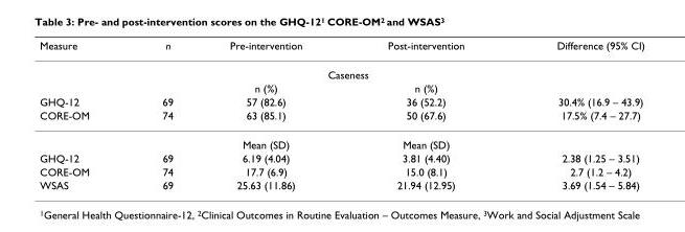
<table><thead><tr><td>Measure</td><td>n</td><td>Pre-intervention</td><td>Post-intervention</td><td>Difference (95% CI)</td></tr></thead><tbody><tr><td></td><td></td><td colspan="2">Caseness</td><td></td></tr><tr><td></td><td></td><td>n (%)</td><td>n (%)</td><td></td></tr><tr><td>GHQ-12</td><td>69</td><td>57 (82.6)</td><td>36 (52.2)</td><td>30.4% (16.9 – 43.9)</td></tr><tr><td rowspan="2">CORE-OM</td><td>74</td><td>63 (85.1)</td><td>50 (67.6)</td><td>17.5% (7.4 – 27.7)</td></tr><tr><td></td><td>Mean (SD)</td><td>Mean (SD)</td><td></td></tr><tr><td>GHQ-12</td><td>69</td><td>6.19 (4.04)</td><td>3.81 (4.40)</td><td>2.38 (1.25 – 3.51)</td></tr><tr><td>CORE-OM</td><td>74</td><td>17.7 (6.9)</td><td>15.0 (8.1)</td><td>2.7 (1.2 – 4.2)</td></tr><tr><td>WSAS</td><td>69</td><td>25.63 (11.86)</td><td>21.94 (12.95)</td><td>3.69 (1.54 – 5.84)</td></tr></tbody></table>